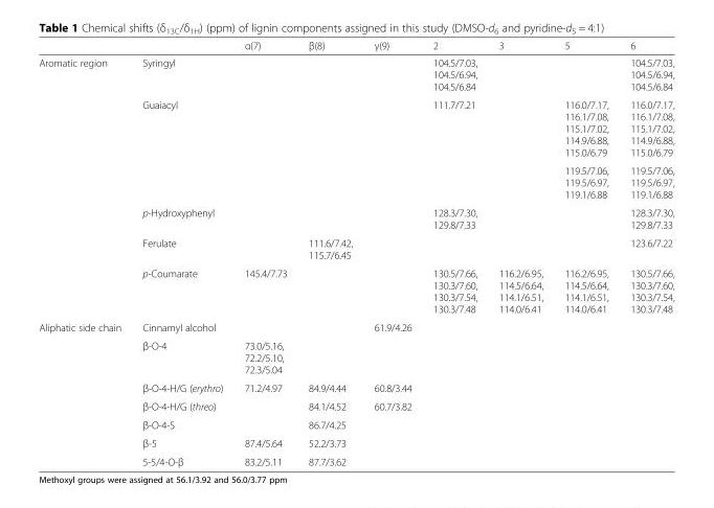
<table><thead><tr><td></td><td></td><td>α(7)</td><td>β(8)</td><td>γ(9)</td><td>2</td><td>3</td><td>5</td><td>6</td></tr></thead><tbody><tr><td rowspan="6">Aromatic region</td><td>Syringyl</td><td></td><td></td><td></td><td>104.5/7.03, 104.5/6.94, 104.5/6.84</td><td></td><td></td><td>104.5/7.03, 104.5/6.94, 104.5/6.84</td></tr><tr><td>Guaiacyl</td><td></td><td></td><td></td><td>111.7/7.21</td><td></td><td>116.0/7.17, 116.1/7.08, 115.1/7.02, 114.9/6.88, 115.0/6.79</td><td>116.0/7.17, 116.1/7.08, 115.1/7.02, 114.9/6.88, 115.0/6.79</td></tr><tr><td></td><td></td><td></td><td></td><td></td><td></td><td>119.5/7.06, 119.5/6.97, 119.1/6.88</td><td>119.5/7.06, 119.5/6.97, 119.1/6.88</td></tr><tr><td>p-Hydroxyphenyl</td><td></td><td></td><td></td><td>128.3/7.30, 129.8/7.33</td><td></td><td></td><td>128.3/7.30, 129.8/7.33</td></tr><tr><td>Ferulate</td><td></td><td>111.6/7.42, 115.7/6.45</td><td></td><td></td><td></td><td></td><td>123.6/7.22</td></tr><tr><td>p-Coumarate</td><td>145.4/7.73</td><td></td><td></td><td>130.5/7.66, 130.3/7.60, 130.3/7.54, 130.3/7.48</td><td>116.2/6.95, 114.5/6.64, 114.1/6.51, 114.0/6.41</td><td>116.2/6.95, 114.5/6.64, 114.1/6.51, 114.0/6.41</td><td>130.5/7.66, 130.3/7.60, 130.3/7.54, 130.3/7.48</td></tr><tr><td rowspan="7">Aliphatic side chain</td><td>Cinnamyl alcohol</td><td></td><td></td><td>61.9/4.26</td><td></td><td></td><td></td><td></td></tr><tr><td>β-O-4</td><td>73.0/5.16, 72.2/5.10, 72.3/5.04</td><td></td><td></td><td></td><td></td><td></td><td></td></tr><tr><td>β-O-4-H/G (erythro)</td><td>71.2/4.97</td><td>84.9/4.44</td><td>60.8/3.44</td><td></td><td></td><td></td><td></td></tr><tr><td>β-O-4-H/G (threo)</td><td></td><td>84.1/4.52</td><td>60.7/3.82</td><td></td><td></td><td></td><td></td></tr><tr><td>β-O-4-S</td><td></td><td>86.7/4.25</td><td></td><td></td><td></td><td></td><td></td></tr><tr><td>β-5</td><td>87.4/5.64</td><td>52.2/3.73</td><td></td><td></td><td></td><td></td><td></td></tr><tr><td>5-5/4-O-β</td><td>83.2/5.11</td><td>87.7/3.62</td><td></td><td></td><td></td><td></td><td></td></tr></tbody></table>